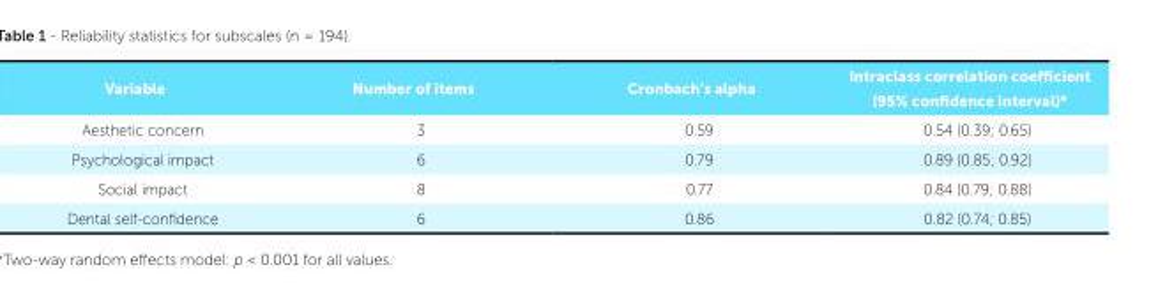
<table><tbody><tr><td>Variable</td><td>Number of items</td><td>Cronbach’s alpha</td><td>Intraclass correlation coefficient (95% confidence interval)*</td></tr><tr><td>Aesthetic concern</td><td>3</td><td>0.59</td><td>0.54 (0.39; 0.65)</td></tr><tr><td>Psychological impact</td><td>6</td><td>0.79</td><td>0.89 (0.85; 0.92)</td></tr><tr><td>Social impact</td><td>8</td><td>0.77</td><td>0.84 (0.79; 0.88)</td></tr><tr><td>Dental self-confidence</td><td>6</td><td>0.86</td><td>0.82 (0.74; 0.85)</td></tr></tbody></table>